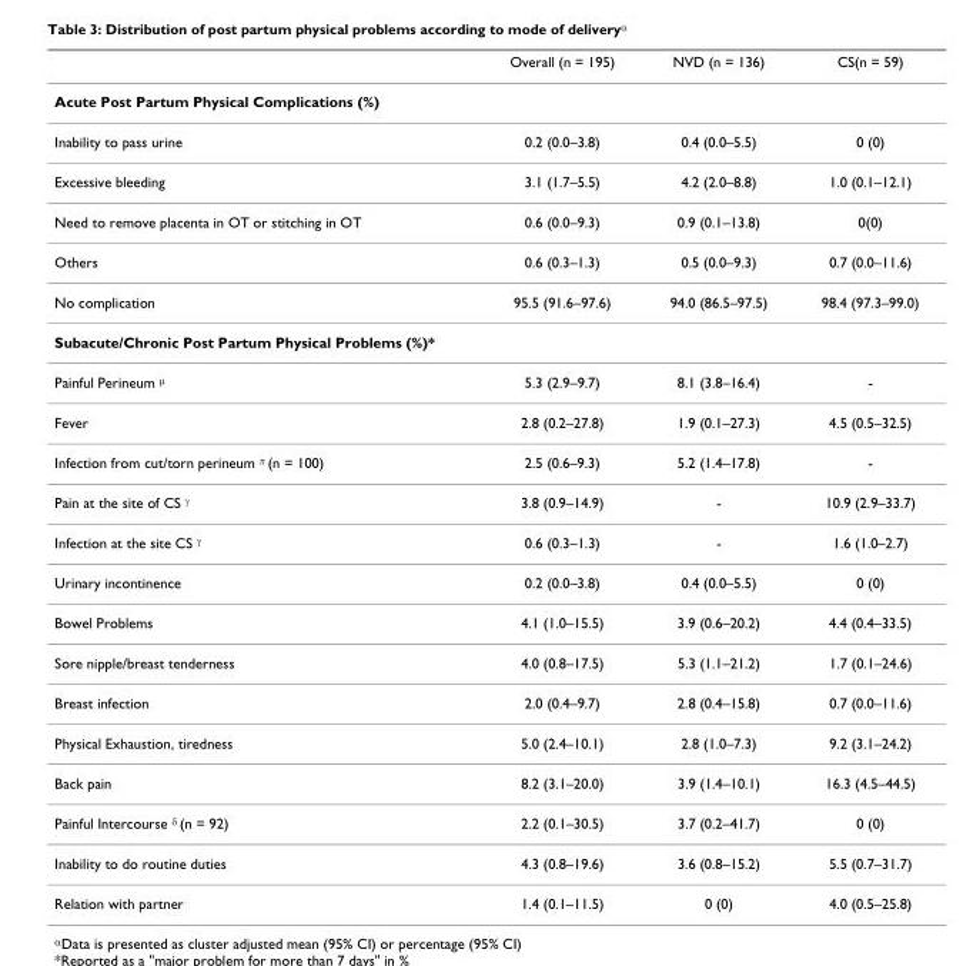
<table><thead><tr><td></td><td>Overall (n = 195)</td><td>NVD (n = 136)</td><td>CS(n = 59)</td></tr></thead><tbody><tr><td colspan="4">Acute Post Partum Physical Complications (%)</td></tr><tr><td>Inability to pass urine</td><td>0.2 (0.0–3.8)</td><td>0.4 (0.0–5.5)</td><td>0 (0)</td></tr><tr><td>Excessive bleeding</td><td>3.1 (1.7–5.5)</td><td>4.2 (2.0–8.8)</td><td>1.0 (0.1–12.1)</td></tr><tr><td>Need to remove placenta in OT or stitching in OT</td><td>0.6 (0.0–9.3)</td><td>0.9 (0.1–13.8)</td><td>0(0)</td></tr><tr><td>Others</td><td>0.6 (0.3–1.3)</td><td>0.5 (0.0–9.3)</td><td>0.7 (0.0–11.6)</td></tr><tr><td>No complication</td><td>95.5 (91.6–97.6)</td><td>94.0 (86.5–97.5)</td><td>98.4 (97.3–99.0)</td></tr><tr><td colspan="4">Subacute/Chronic Post Partum Physical Problems (%)*</td></tr><tr><td>Painful Perineum <sup>μ</sup></td><td>5.3 (2.9–9.7)</td><td>8.1 (3.8–16.4)</td><td>-</td></tr><tr><td>Fever</td><td>2.8 (0.2–27.8)</td><td>1.9 (0.1–27.3)</td><td>4.5 (0.5–32.5)</td></tr><tr><td>Infection from cut/torn perineum <sup>π</sup> (n = 100)</td><td>2.5 (0.6–9.3)</td><td>5.2 (1.4–17.8)</td><td>-</td></tr><tr><td>Pain at the site of CS <sup>γ</sup></td><td>3.8 (0.9–14.9)</td><td>-</td><td>10.9 (2.9–33.7)</td></tr><tr><td>Infection at the site CS <sup>γ</sup></td><td>0.6 (0.3–1.3)</td><td>-</td><td>1.6 (1.0–2.7)</td></tr><tr><td>Urinary incontinence</td><td>0.2 (0.0–3.8)</td><td>0.4 (0.0–5.5)</td><td>0 (0)</td></tr><tr><td>Bowel Problems</td><td>4.1 (1.0–15.5)</td><td>3.9 (0.6–20.2)</td><td>4.4 (0.4–33.5)</td></tr><tr><td>Sore nipple/breast tenderness</td><td>4.0 (0.8–17.5)</td><td>5.3 (1.1–21.2)</td><td>1.7 (0.1–24.6)</td></tr><tr><td>Breast infection</td><td>2.0 (0.4–9.7)</td><td>2.8 (0.4–15.8)</td><td>0.7 (0.0–11.6)</td></tr><tr><td>Physical Exhaustion, tiredness</td><td>5.0 (2.4–10.1)</td><td>2.8 (1.0–7.3)</td><td>9.2 (3.1–24.2)</td></tr><tr><td>Back pain</td><td>8.2 (3.1–20.0)</td><td>3.9 (1.4–10.1)</td><td>16.3 (4.5–44.5)</td></tr><tr><td>Painful Intercourse <sup>δ</sup> (n = 92)</td><td>2.2 (0.1–30.5)</td><td>3.7 (0.2–41.7)</td><td>0 (0)</td></tr><tr><td>Inability to do routine duties</td><td>4.3 (0.8–19.6)</td><td>3.6 (0.8–15.2)</td><td>5.5 (0.7–31.7)</td></tr><tr><td>Relation with partner</td><td>1.4 (0.1–11.5)</td><td>0 (0)</td><td>4.0 (0.5–25.8)</td></tr></tbody></table>